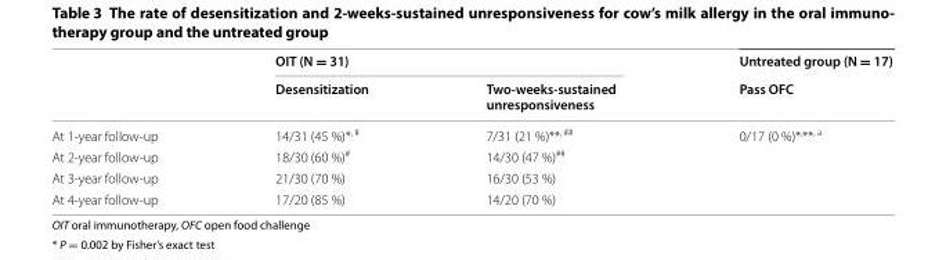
<table><thead><tr><td rowspan="2"></td><td colspan="2">OIT (N = 31)</td><td rowspan="2">Untreated group (N = 17) Pass OFC</td></tr><tr><td>Desensitization</td><td>Two-weeks-sustained unresponsiveness</td></tr></thead><tbody><tr><td>At 1‑year follow‑up</td><td>14/31 (45 %)*<sup>, #</sup></td><td>7/31 (21 %)**<sup>, ##</sup></td><td>0/17 (0 %)*<sup>,</sup>**<sup>, a</sup></td></tr><tr><td>At 2‑year follow‑up</td><td>18/30 (60 %)<sup>#</sup></td><td>14/30 (47 %)<sup>##</sup></td><td></td></tr><tr><td>At 3‑year follow‑up</td><td>21/30 (70 %)</td><td>16/30 (53 %)</td><td></td></tr><tr><td>At 4‑year follow‑up</td><td>17/20 (85 %)</td><td>14/20 (70 %)</td><td></td></tr></tbody></table>